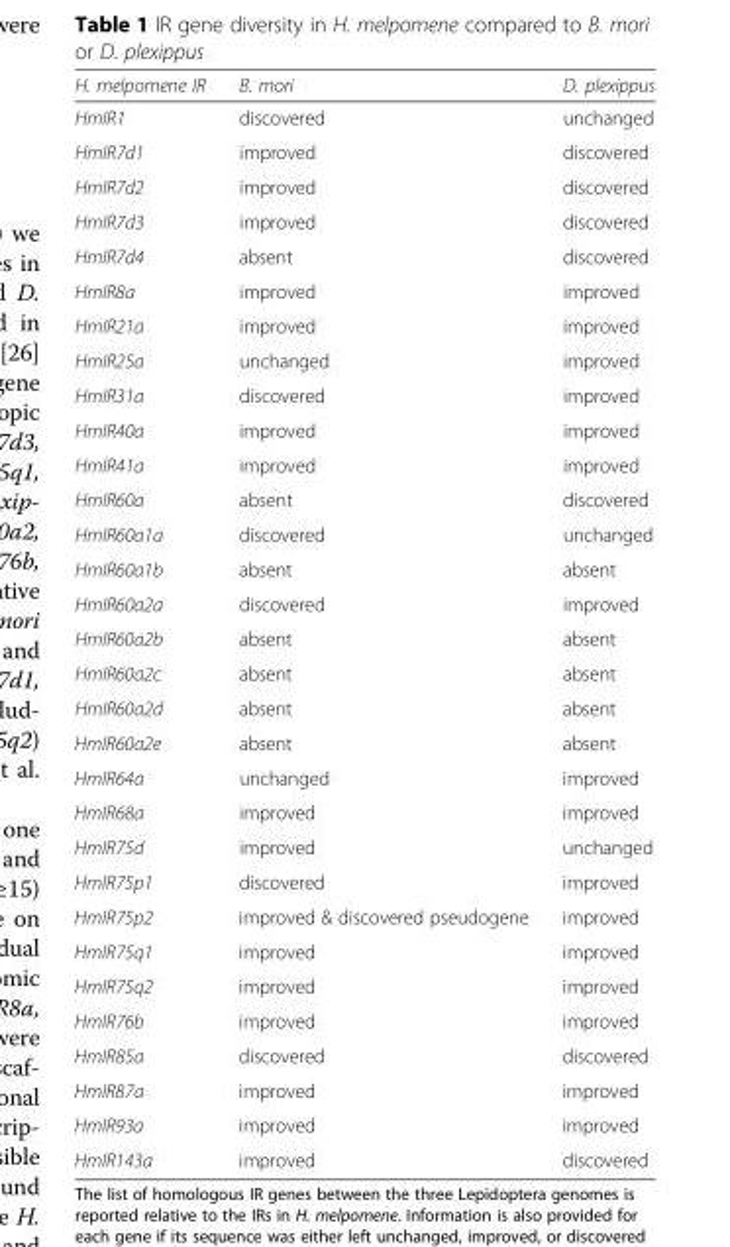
<table><thead><tr><td>H. melpomene IR</td><td>B. mori</td><td>D. plexippus</td></tr></thead><tbody><tr><td>HmIR1</td><td>discovered</td><td>unchanged</td></tr><tr><td>HmIR7d1</td><td>improved</td><td>discovered</td></tr><tr><td>HmIR7d2</td><td>improved</td><td>discovered</td></tr><tr><td>HmIR7d3</td><td>improved</td><td>discovered</td></tr><tr><td>HmIR7d4</td><td>absent</td><td>discovered</td></tr><tr><td>HmIR8a</td><td>improved</td><td>improved</td></tr><tr><td>HmIR21a</td><td>improved</td><td>improved</td></tr><tr><td>HmIR25a</td><td>unchanged</td><td>improved</td></tr><tr><td>HmIR31a</td><td>discovered</td><td>improved</td></tr><tr><td>HmIR40a</td><td>improved</td><td>improved</td></tr><tr><td>HmIR41a</td><td>improved</td><td>improved</td></tr><tr><td>HmIR60a</td><td>absent</td><td>discovered</td></tr><tr><td>HmIR60a1a</td><td>discovered</td><td>unchanged</td></tr><tr><td>HmIR60a1b</td><td>absent</td><td>absent</td></tr><tr><td>HmIR60a2a</td><td>discovered</td><td>improved</td></tr><tr><td>HmIR60a2b</td><td>absent</td><td>absent</td></tr><tr><td>HmIR60a2c</td><td>absent</td><td>absent</td></tr><tr><td>HmIR60a2d</td><td>absent</td><td>absent</td></tr><tr><td>HmIR60a2e</td><td>absent</td><td>absent</td></tr><tr><td>HmIR64a</td><td>unchanged</td><td>improved</td></tr><tr><td>HmIR68a</td><td>improved</td><td>improved</td></tr><tr><td>HmIR75d</td><td>improved</td><td>unchanged</td></tr><tr><td>HmIR75p1</td><td>discovered</td><td>improved</td></tr><tr><td>HmIR75p2</td><td>improved &amp; discovered pseudogene</td><td>improved</td></tr><tr><td>HmIR75q1</td><td>improved</td><td>improved</td></tr><tr><td>HmIR75q2</td><td>improved</td><td>improved</td></tr><tr><td>HmIR76b</td><td>improved</td><td>improved</td></tr><tr><td>HmIR85a</td><td>discovered</td><td>discovered</td></tr><tr><td>HmIR87a</td><td>improved</td><td>improved</td></tr><tr><td>HmIR93a</td><td>improved</td><td>improved</td></tr><tr><td>HmIR143a</td><td>improved</td><td>discovered</td></tr></tbody></table>